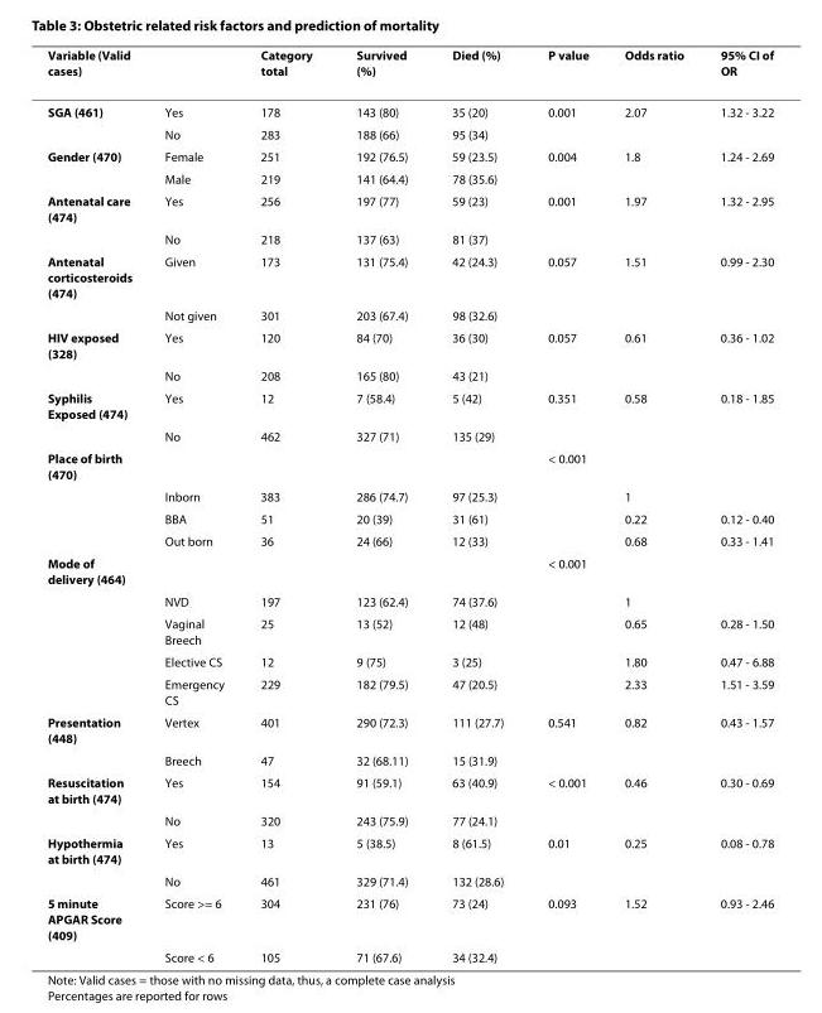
<table><thead><tr><td>Variable (Valid cases)</td><td></td><td>Category total</td><td>Survived (%)</td><td>Died (%)</td><td>P value</td><td>Odds ratio</td><td>95% CI of OR</td></tr></thead><tbody><tr><td rowspan="2">SGA (461)</td><td>Yes</td><td>178</td><td>143 (80)</td><td>35 (20)</td><td>0.001</td><td>2.07</td><td>1.32 - 3.22</td></tr><tr><td>No</td><td>283</td><td>188 (66)</td><td>95 (34)</td><td></td><td></td><td></td></tr><tr><td rowspan="2">Gender (470)</td><td>Female</td><td>251</td><td>192 (76.5)</td><td>59 (23.5)</td><td>0.004</td><td>1.8</td><td>1.24 - 2.69</td></tr><tr><td>Male</td><td>219</td><td>141 (64.4)</td><td>78 (35.6)</td><td></td><td></td><td></td></tr><tr><td rowspan="2">Antenatal care (474)</td><td>Yes</td><td>256</td><td>197 (77)</td><td>59 (23)</td><td>0.001</td><td>1.97</td><td>1.32 - 2.95</td></tr><tr><td>No</td><td>218</td><td>137 (63)</td><td>81 (37)</td><td></td><td></td><td></td></tr><tr><td rowspan="2">Antenatal corticosteroids (474)</td><td>Given</td><td>173</td><td>131 (75.4)</td><td>42 (24.3)</td><td>0.057</td><td>1.51</td><td>0.99 - 2.30</td></tr><tr><td>Not given</td><td>301</td><td>203 (67.4)</td><td>98 (32.6)</td><td></td><td></td><td></td></tr><tr><td rowspan="2">HIV exposed (328)</td><td>Yes</td><td>120</td><td>84 (70)</td><td>36 (30)</td><td>0.057</td><td>0.61</td><td>0.36 - 1.02</td></tr><tr><td>No</td><td>208</td><td>165 (80)</td><td>43 (21)</td><td></td><td></td><td></td></tr><tr><td rowspan="2">Syphilis Exposed (474)</td><td>Yes</td><td>12</td><td>7 (58.4)</td><td>5 (42)</td><td>0.351</td><td>0.58</td><td>0.18 - 1.85</td></tr><tr><td>No</td><td>462</td><td>327 (71)</td><td>135 (29)</td><td></td><td></td><td></td></tr><tr><td rowspan="4">Place of birth (470)</td><td></td><td></td><td></td><td></td><td>&lt; 0.001</td><td></td><td></td></tr><tr><td>Inborn</td><td>383</td><td>286 (74.7)</td><td>97 (25.3)</td><td></td><td>1</td><td></td></tr><tr><td>BBA</td><td>51</td><td>20 (39)</td><td>31 (61)</td><td></td><td>0.22</td><td>0.12 - 0.40</td></tr><tr><td>Out born</td><td>36</td><td>24 (66)</td><td>12 (33)</td><td></td><td>0.68</td><td>0.33 - 1.41</td></tr><tr><td rowspan="5">Mode of delivery (464)</td><td></td><td></td><td></td><td></td><td>&lt; 0.001</td><td></td><td></td></tr><tr><td>NVD</td><td>197</td><td>123 (62.4)</td><td>74 (37.6)</td><td></td><td>1</td><td></td></tr><tr><td>Vaginal Breech</td><td>25</td><td>13 (52)</td><td>12 (48)</td><td></td><td>0.65</td><td>0.28 - 1.50</td></tr><tr><td>Elective CS</td><td>12</td><td>9 (75)</td><td>3 (25)</td><td></td><td>1.80</td><td>0.47 - 6.88</td></tr><tr><td>Emergency CS</td><td>229</td><td>182 (79.5)</td><td>47 (20.5)</td><td></td><td>2.33</td><td>1.51 - 3.59</td></tr><tr><td rowspan="2">Presentation (448)</td><td>Vertex</td><td>401</td><td>290 (72.3)</td><td>111 (27.7)</td><td>0.541</td><td>0.82</td><td>0.43 - 1.57</td></tr><tr><td>Breech</td><td>47</td><td>32 (68.11)</td><td>15 (31.9)</td><td></td><td></td><td></td></tr><tr><td rowspan="2">Resuscitation at birth (474)</td><td>Yes</td><td>154</td><td>91 (59.1)</td><td>63 (40.9)</td><td>&lt; 0.001</td><td>0.46</td><td>0.30 - 0.69</td></tr><tr><td>No</td><td>320</td><td>243 (75.9)</td><td>77 (24.1)</td><td></td><td></td><td></td></tr><tr><td rowspan="2">Hypothermia at birth (474)</td><td>Yes</td><td>13</td><td>5 (38.5)</td><td>8 (61.5)</td><td>0.01</td><td>0.25</td><td>0.08 - 0.78</td></tr><tr><td>No</td><td>461</td><td>329 (71.4)</td><td>132 (28.6)</td><td></td><td></td><td></td></tr><tr><td rowspan="2">5 minute APGAR Score (409)</td><td>Score &gt;= 6</td><td>304</td><td>231 (76)</td><td>73 (24)</td><td>0.093</td><td>1.52</td><td>0.93 - 2.46</td></tr><tr><td>Score &lt; 6</td><td>105</td><td>71 (67.6)</td><td>34 (32.4)</td><td></td><td></td><td></td></tr></tbody></table>